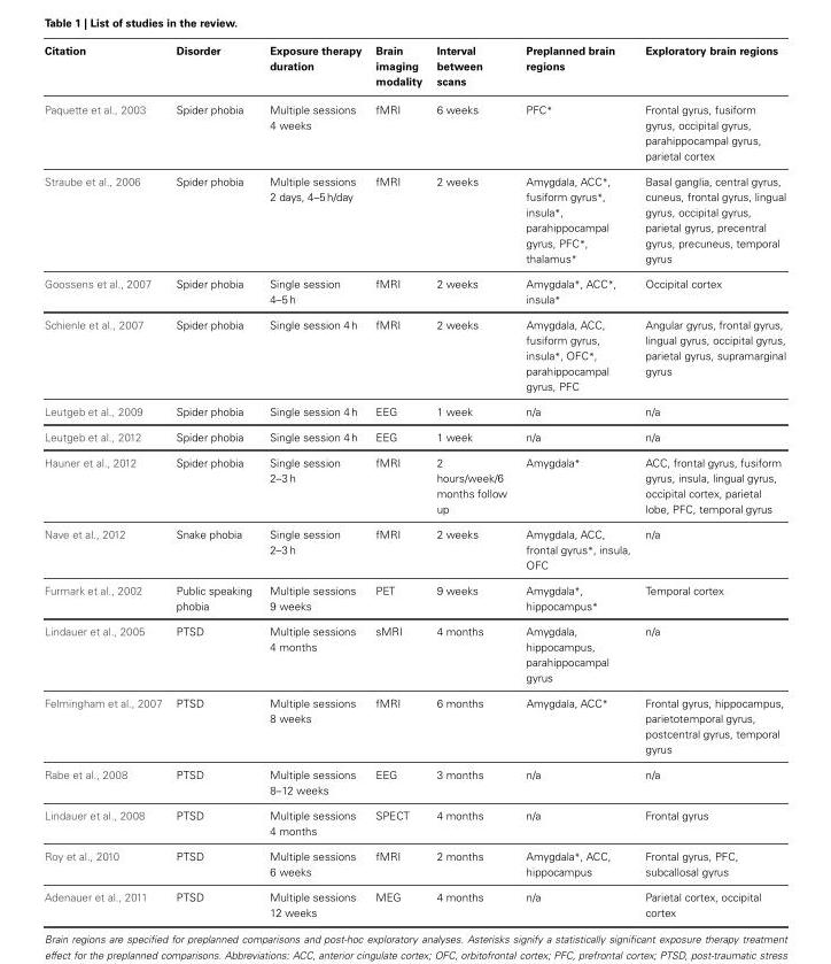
<table><thead><tr><td>Citation</td><td>Disorder</td><td>Exposure therapy duration</td><td>Brain imaging modality</td><td>Interval between scans</td><td>Preplanned brain regions</td><td>Exploratory brain regions</td></tr></thead><tbody><tr><td>Paquette et al., 2003</td><td>Spider phobia</td><td>Multiple sessions 4 weeks</td><td>fMRI</td><td>6 weeks</td><td>PFC*</td><td>Frontal gyrus, fusiform gyrus, occipital gyrus, parahippocampal gyrus, parietal cortex</td></tr><tr><td>Straube et al., 2006</td><td>Spider phobia</td><td>Multiple sessions 2 days, 4–5 h/day</td><td>fMRI</td><td>2 weeks</td><td>Amygdala, ACC*, fusiform gyrus*, insula*, parahippocampal gyrus, PFC*, thalamus*</td><td>Basal ganglia, central gyrus, cuneus, frontal gyrus, lingual gyrus, occipital gyrus, parietal gyrus, precentral gyrus, precuneus, temporal gyrus</td></tr><tr><td>Goossens et al., 2007</td><td>Spider phobia</td><td>Single session 4–5 h</td><td>fMRI</td><td>2 weeks</td><td>Amygdala*, ACC*, insula*</td><td>Occipital cortex</td></tr><tr><td>Schienle et al., 2007</td><td>Spider phobia</td><td>Single session 4 h</td><td>fMRI</td><td>2 weeks</td><td>Amygdala, ACC, fusiform gyrus, insula*, OFC*, parahippocampal gyrus, PFC</td><td>Angular gyrus, frontal gyrus, lingual gyrus, occipital gyrus, parietal gyrus, supramarginal gyrus</td></tr><tr><td>Leutgeb et al., 2009</td><td>Spider phobia</td><td>Single session 4 h</td><td>EEG</td><td>1 week</td><td>n/a</td><td>n/a</td></tr><tr><td>Leutgeb et al., 2012</td><td>Spider phobia</td><td>Single session 4 h</td><td>EEG</td><td>1 week</td><td>n/a</td><td>n/a</td></tr><tr><td>Hauner et al., 2012</td><td>Spider phobia</td><td>Single session 2–3 h</td><td>fMRI</td><td>2 hours/week/6 months follow up</td><td>Amygdala*</td><td>ACC, frontal gyrus, fusiform gyrus, insula, lingual gyrus, occipital cortex, parietal lobe, PFC, temporal gyrus</td></tr><tr><td>Nave et al., 2012</td><td>Snake phobia</td><td>Single session 2–3 h</td><td>fMRI</td><td>2 weeks</td><td>Amygdala, ACC, frontal gyrus*, insula, OFC</td><td>n/a</td></tr><tr><td>Furmark et al., 2002</td><td>Public speaking phobia</td><td>Multiple sessions 9 weeks</td><td>PET</td><td>9 weeks</td><td>Amygdala*, hippocampus*</td><td>Temporal cortex</td></tr><tr><td>Lindauer et al., 2005</td><td>PTSD</td><td>Multiple sessions 4 months</td><td>sMRI</td><td>4 months</td><td>Amygdala, hippocampus, parahippocampal gyrus</td><td>n/a</td></tr><tr><td>Felmingham et al., 2007</td><td>PTSD</td><td>Multiple sessions 8 weeks</td><td>fMRI</td><td>6 months</td><td>Amygdala, ACC*</td><td>Frontal gyrus, hippocampus, parietotemporal gyrus, postcentral gyrus, temporal gyrus</td></tr><tr><td>Rabe et al., 2008</td><td>PTSD</td><td>Multiple sessions 8–12 weeks</td><td>EEG</td><td>3 months</td><td>n/a</td><td>n/a</td></tr><tr><td>Lindauer et al., 2008</td><td>PTSD</td><td>Multiple sessions 4 months</td><td>SPECT</td><td>4 months</td><td>n/a</td><td>Frontal gyrus</td></tr><tr><td>Roy et al., 2010</td><td>PTSD</td><td>Multiple sessions 6 weeks</td><td>fMRI</td><td>2 months</td><td>Amygdala*, ACC, hippocampus</td><td>Frontal gyrus, PFC, subcallosal gyrus</td></tr><tr><td>Adenauer et al., 2011</td><td>PTSD</td><td>Multiple sessions 12 weeks</td><td>MEG</td><td>4 months</td><td>n/a</td><td>Parietal cortex, occipital cortex</td></tr></tbody></table>